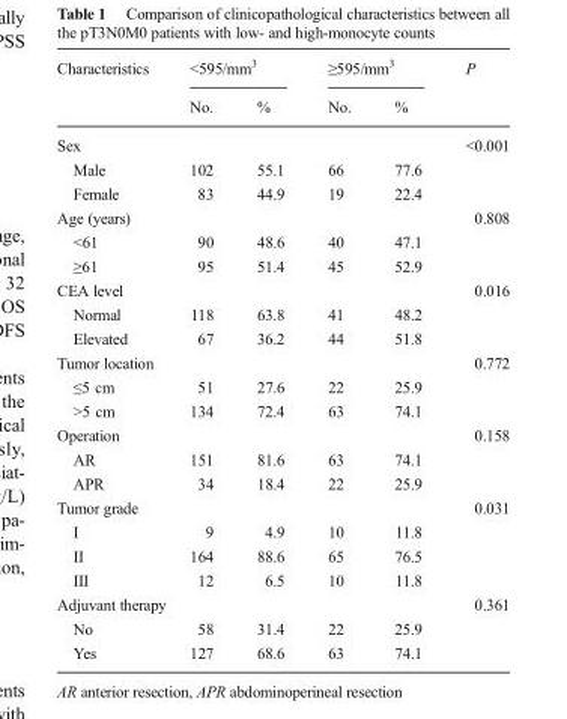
<table><thead><tr><td rowspan="2">Characteristics</td><td colspan="2">&lt;595/mm<sup>3</sup></td><td colspan="2">≥595/mm<sup>3</sup></td><td rowspan="2">P</td></tr><tr><td>No.</td><td>%</td><td>No.</td><td>%</td></tr></thead><tbody><tr><td colspan="5">Sex</td><td>&lt;0.001</td></tr><tr><td>Male</td><td>102</td><td>55.1</td><td>66</td><td>77.6</td><td></td></tr><tr><td>Female</td><td>83</td><td>44.9</td><td>19</td><td>22.4</td><td></td></tr><tr><td colspan="5">Age (years)</td><td>0.808</td></tr><tr><td>&lt;61</td><td>90</td><td>48.6</td><td>40</td><td>47.1</td><td></td></tr><tr><td>≥61</td><td>95</td><td>51.4</td><td>45</td><td>52.9</td><td></td></tr><tr><td colspan="5">CEA level</td><td>0.016</td></tr><tr><td>Normal</td><td>118</td><td>63.8</td><td>41</td><td>48.2</td><td></td></tr><tr><td>Elevated</td><td>67</td><td>36.2</td><td>44</td><td>51.8</td><td></td></tr><tr><td colspan="5">Tumor location</td><td>0.772</td></tr><tr><td>≤5 cm</td><td>51</td><td>27.6</td><td>22</td><td>25.9</td><td></td></tr><tr><td>&gt;5 cm</td><td>134</td><td>72.4</td><td>63</td><td>74.1</td><td></td></tr><tr><td colspan="5">Operation</td><td>0.158</td></tr><tr><td>AR</td><td>151</td><td>81.6</td><td>63</td><td>74.1</td><td></td></tr><tr><td>APR</td><td>34</td><td>18.4</td><td>22</td><td>25.9</td><td></td></tr><tr><td colspan="5">Tumor grade</td><td>0.031</td></tr><tr><td>I</td><td>9</td><td>4.9</td><td>10</td><td>11.8</td><td></td></tr><tr><td>II</td><td>164</td><td>88.6</td><td>65</td><td>76.5</td><td></td></tr><tr><td>III</td><td>12</td><td>6.5</td><td>10</td><td>11.8</td><td></td></tr><tr><td colspan="5">Adjuvant therapy</td><td>0.361</td></tr><tr><td>No</td><td>58</td><td>31.4</td><td>22</td><td>25.9</td><td></td></tr><tr><td>Yes</td><td>127</td><td>68.6</td><td>63</td><td>74.1</td><td></td></tr></tbody></table>